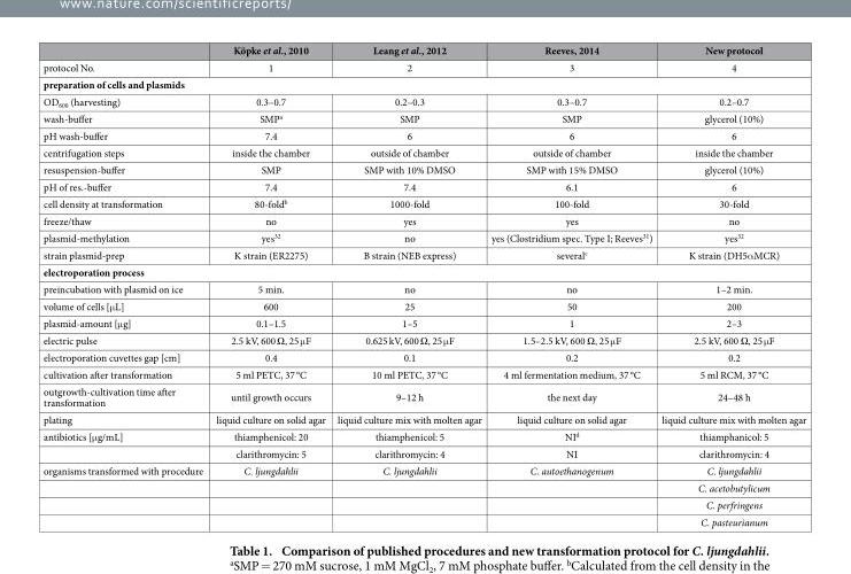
<table><thead><tr><td></td><td>Köpke et al., 2010</td><td>Leang et al., 2012</td><td>Reeves, 2014</td><td>New protocol</td></tr></thead><tbody><tr><td>protocol No.</td><td>1</td><td>2</td><td>3</td><td>4</td></tr><tr><td colspan="5">preparation of cells and plasmids</td></tr><tr><td>OD<sub>600</sub> (harvesting)</td><td>0.3–0.7</td><td>0.2–0.3</td><td>0.3–0.7</td><td>0.2–0.7</td></tr><tr><td>wash-buffer</td><td>SMP<sup>a</sup></td><td>SMP</td><td>SMP</td><td>glycerol (10%)</td></tr><tr><td>pH wash-buffer</td><td>7.4</td><td>6</td><td>6</td><td>6</td></tr><tr><td>centrifugation steps</td><td>inside the chamber</td><td>outside of chamber</td><td>outside of chamber</td><td>inside the chamber</td></tr><tr><td>resuspension-buffer</td><td>SMP</td><td>SMP with 10% DMSO</td><td>SMP with 15% DMSO</td><td>glycerol (10%)</td></tr><tr><td>pH of res.-buffer</td><td>7.4</td><td>7.4</td><td>6.1</td><td>6</td></tr><tr><td>cell density at transformation</td><td>80-fold<sup>b</sup></td><td>1000-fold</td><td>100-fold</td><td>30-fold</td></tr><tr><td>freeze/thaw</td><td>no</td><td>yes</td><td>yes</td><td>no</td></tr><tr><td>plasmid-methylation</td><td>yes<sup>32</sup></td><td>no</td><td>yes (Clostridium spec. Type I; Reeves<sup>31</sup>)</td><td>yes<sup>32</sup></td></tr><tr><td>strain plasmid-prep</td><td>K strain (ER2275)</td><td>B strain (NEB express)</td><td>several<sup>c</sup></td><td>K strain (DH5α MCR)</td></tr><tr><td colspan="5">electroporation process</td></tr><tr><td>preincubation with plasmid on ice</td><td>5 min.</td><td>no</td><td>no</td><td>1–2 min.</td></tr><tr><td>volume of cells [μ L]</td><td>600</td><td>25</td><td>50</td><td>200</td></tr><tr><td>plasmid-amount [μ g]</td><td>0.1–1.5</td><td>1–5</td><td>1</td><td>2–3</td></tr><tr><td>electric pulse</td><td>2.5 kV, 600 Ω , 25 μ F</td><td>0.625 kV, 600 Ω , 25 μ F</td><td>1.5–2.5 kV, 600 Ω , 25 μ F</td><td>2.5 kV, 600 Ω , 25 μ F</td></tr><tr><td>electroporation cuvettes gap [cm]</td><td>0.4</td><td>0.1</td><td>0.2</td><td>0.2</td></tr><tr><td>cultivation after transformation</td><td>5 ml PETC, 37 °C</td><td>10 ml PETC, 37 °C</td><td>4 ml fermentation medium, 37 °C</td><td>5 ml RCM, 37 °C</td></tr><tr><td>outgrowth-cultivation time after transformation</td><td>until growth occurs</td><td>9–12 h</td><td>the next day</td><td>24–48 h</td></tr><tr><td>plating</td><td>liquid culture on solid agar</td><td>liquid culture mix with molten agar</td><td>liquid culture on solid agar</td><td>liquid culture mix with molten agar</td></tr><tr><td rowspan="2">antibiotics [μ g/mL]</td><td>thiamphenicol: 20</td><td>thiamphenicol: 5</td><td>NI<sup>d</sup></td><td>thiamphanicol: 5</td></tr><tr><td>clarithromycin: 5</td><td>clarithromycin: 4</td><td>NI</td><td>clarithromycin: 4</td></tr><tr><td rowspan="4">organisms transformed with procedure</td><td>C. ljungdahlii</td><td>C. ljungdahlii</td><td>C. autoethanogenum</td><td>C. ljungdahlii</td></tr><tr><td></td><td></td><td></td><td>C. acetobutylicum</td></tr><tr><td></td><td></td><td></td><td>C. perfringens</td></tr><tr><td></td><td></td><td></td><td>C. pasteurianum</td></tr></tbody></table>